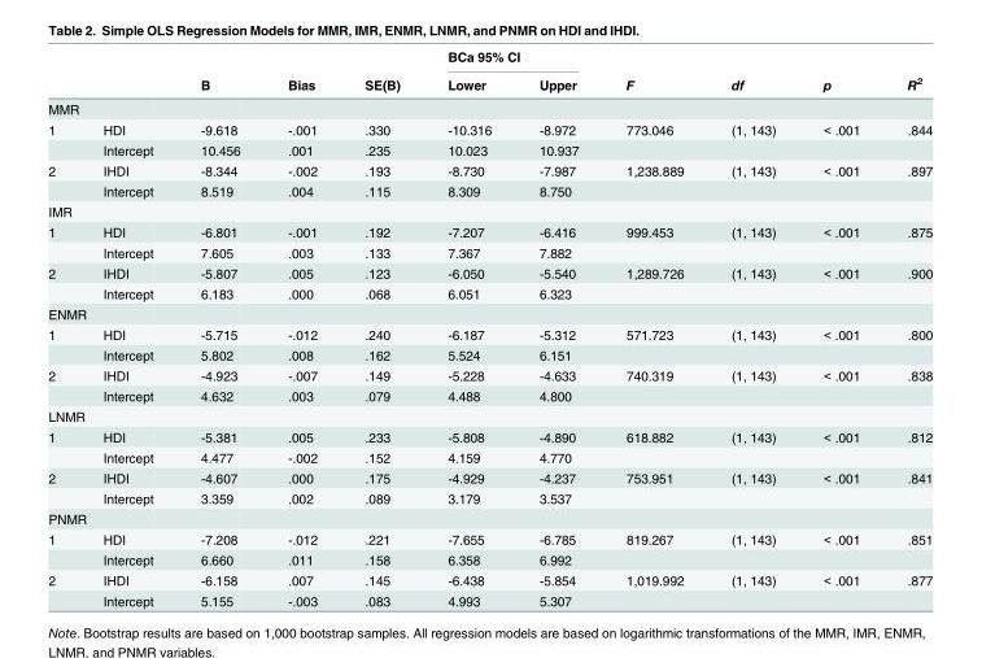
<table><thead><tr><td rowspan="2"></td><td rowspan="2"></td><td rowspan="2">B</td><td rowspan="2">Bias</td><td rowspan="2">SE(B)</td><td colspan="2">BCa 95% CI</td><td rowspan="2">F</td><td rowspan="2">df</td><td rowspan="2">p</td><td rowspan="2">R<sup>2</sup></td></tr><tr><td>Lower</td><td>Upper</td></tr></thead><tbody><tr><td colspan="11">MMR</td></tr><tr><td rowspan="2">1</td><td>HDI</td><td>-9.618</td><td>-.001</td><td>.330</td><td>-10.316</td><td>-8.972</td><td>773.046</td><td>(1, 143)</td><td>&lt; .001</td><td>.844</td></tr><tr><td>Intercept</td><td>10.456</td><td>.001</td><td>.235</td><td>10.023</td><td>10.937</td><td></td><td></td><td></td><td></td></tr><tr><td rowspan="2">2</td><td>IHDI</td><td>-8.344</td><td>-.002</td><td>.193</td><td>-8.730</td><td>-7.987</td><td>1,238.889</td><td>(1, 143)</td><td>&lt; .001</td><td>.897</td></tr><tr><td>Intercept</td><td>8.519</td><td>.004</td><td>.115</td><td>8.309</td><td>8.750</td><td></td><td></td><td></td><td></td></tr><tr><td colspan="11">IMR</td></tr><tr><td rowspan="2">1</td><td>HDI</td><td>-6.801</td><td>-.001</td><td>.192</td><td>-7.207</td><td>-6.416</td><td>999.453</td><td>(1, 143)</td><td>&lt; .001</td><td>.875</td></tr><tr><td>Intercept</td><td>7.605</td><td>.003</td><td>.133</td><td>7.367</td><td>7.882</td><td></td><td></td><td></td><td></td></tr><tr><td rowspan="2">2</td><td>IHDI</td><td>-5.807</td><td>.005</td><td>.123</td><td>-6.050</td><td>-5.540</td><td>1,289.726</td><td>(1, 143)</td><td>&lt; .001</td><td>.900</td></tr><tr><td>Intercept</td><td>6.183</td><td>.000</td><td>.068</td><td>6.051</td><td>6.323</td><td></td><td></td><td></td><td></td></tr><tr><td colspan="11">ENMR</td></tr><tr><td rowspan="2">1</td><td>HDI</td><td>-5.715</td><td>-.012</td><td>.240</td><td>-6.187</td><td>-5.312</td><td>571.723</td><td>(1, 143)</td><td>&lt; .001</td><td>.800</td></tr><tr><td>Intercept</td><td>5.802</td><td>.008</td><td>.162</td><td>5.524</td><td>6.151</td><td></td><td></td><td></td><td></td></tr><tr><td rowspan="2">2</td><td>IHDI</td><td>-4.923</td><td>-.007</td><td>.149</td><td>-5.228</td><td>-4.633</td><td>740.319</td><td>(1, 143)</td><td>&lt; .001</td><td>.838</td></tr><tr><td>Intercept</td><td>4.632</td><td>.003</td><td>.079</td><td>4.488</td><td>4.800</td><td></td><td></td><td></td><td></td></tr><tr><td colspan="11">LNMR</td></tr><tr><td rowspan="2">1</td><td>HDI</td><td>-5.381</td><td>.005</td><td>.233</td><td>-5.808</td><td>-4.890</td><td>618.882</td><td>(1, 143)</td><td>&lt; .001</td><td>.812</td></tr><tr><td>Intercept</td><td>4.477</td><td>-.002</td><td>.152</td><td>4.159</td><td>4.770</td><td></td><td></td><td></td><td></td></tr><tr><td rowspan="2">2</td><td>IHDI</td><td>-4.607</td><td>.000</td><td>.175</td><td>-4.929</td><td>-4.237</td><td>753.951</td><td>(1, 143)</td><td>&lt; .001</td><td>.841</td></tr><tr><td>Intercept</td><td>3.359</td><td>.002</td><td>.089</td><td>3.179</td><td>3.537</td><td></td><td></td><td></td><td></td></tr><tr><td colspan="11">PNMR</td></tr><tr><td rowspan="2">1</td><td>HDI</td><td>-7.208</td><td>-.012</td><td>.221</td><td>-7.655</td><td>-6.785</td><td>819.267</td><td>(1, 143)</td><td>&lt; .001</td><td>.851</td></tr><tr><td>Intercept</td><td>6.660</td><td>.011</td><td>.158</td><td>6.358</td><td>6.992</td><td></td><td></td><td></td><td></td></tr><tr><td rowspan="2">2</td><td>IHDI</td><td>-6.158</td><td>.007</td><td>.145</td><td>-6.438</td><td>-5.854</td><td>1,019.992</td><td>(1, 143)</td><td>&lt; .001</td><td>.877</td></tr><tr><td>Intercept</td><td>5.155</td><td>-.003</td><td>.083</td><td>4.993</td><td>5.307</td><td></td><td></td><td></td><td></td></tr></tbody></table>